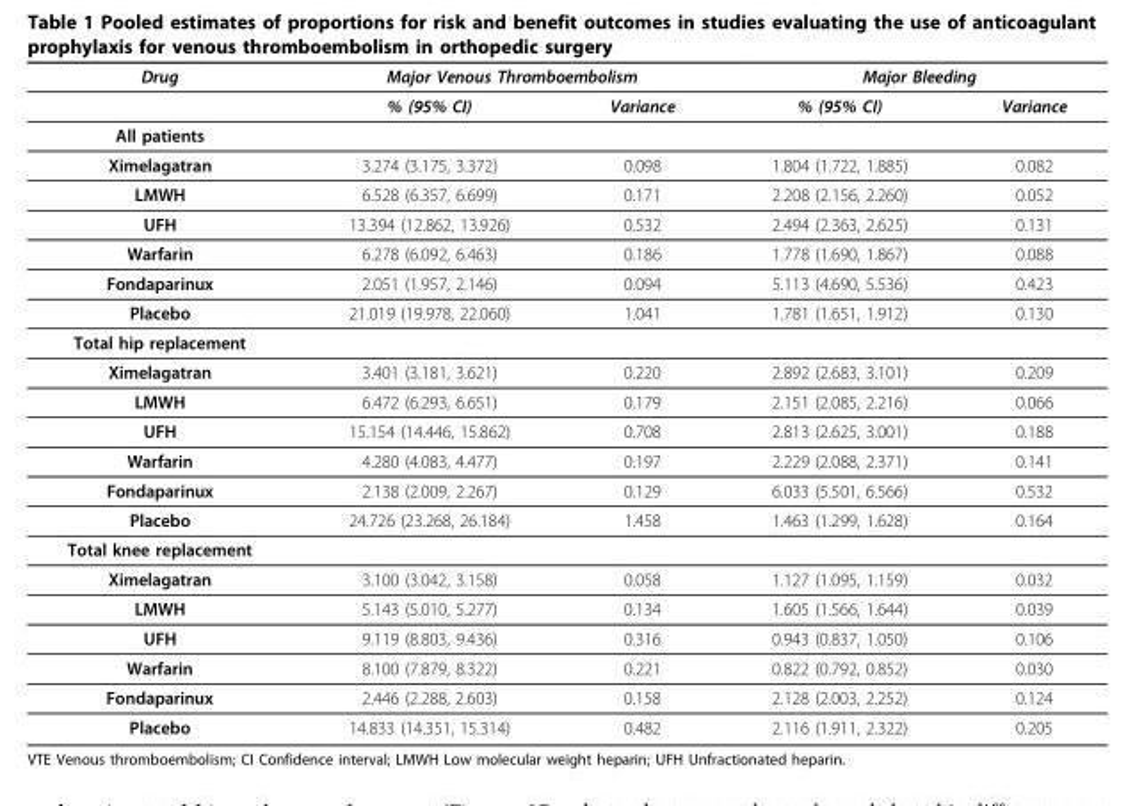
<table><thead><tr><td rowspan="2">Drug</td><td colspan="2">Major Venous Thromboembolism</td><td colspan="2">Major Bleeding</td></tr><tr><td>% (95% CI)</td><td>Variance</td><td>% (95% CI)</td><td>Variance</td></tr></thead><tbody><tr><td colspan="5">All patients</td></tr><tr><td>Ximelagatran</td><td>3.274 (3.175, 3.372)</td><td>0.098</td><td>1.804 (1.722, 1.885)</td><td>0.082</td></tr><tr><td>LMWH</td><td>6.528 (6.357, 6.699)</td><td>0.171</td><td>2.208 (2.156, 2.260)</td><td>0.052</td></tr><tr><td>UFH</td><td>13.394 (12.862, 13.926)</td><td>0.532</td><td>2.494 (2.363, 2.625)</td><td>0.131</td></tr><tr><td>Warfarin</td><td>6.278 (6.092, 6.463)</td><td>0.186</td><td>1.778 (1.690, 1.867)</td><td>0.088</td></tr><tr><td>Fondaparinux</td><td>2.051 (1.957, 2.146)</td><td>0.094</td><td>5.113 (4.690, 5.536)</td><td>0.423</td></tr><tr><td>Placebo</td><td>21.019 (19.978, 22.060)</td><td>1.041</td><td>1.781 (1.651, 1.912)</td><td>0.130</td></tr><tr><td colspan="5">Total hip replacement</td></tr><tr><td>Ximelagatran</td><td>3.401 (3.181, 3.621)</td><td>0.220</td><td>2.892 (2.683, 3.101)</td><td>0.209</td></tr><tr><td>LMWH</td><td>6.472 (6.293, 6.651)</td><td>0.179</td><td>2.151 (2.085, 2.216)</td><td>0.066</td></tr><tr><td>UFH</td><td>15.154 (14.446, 15.862)</td><td>0.708</td><td>2.813 (2.625, 3.001)</td><td>0.188</td></tr><tr><td>Warfarin</td><td>4.280 (4.083, 4.477)</td><td>0.197</td><td>2.229 (2.088, 2.371)</td><td>0.141</td></tr><tr><td>Fondaparinux</td><td>2.138 (2.009, 2.267)</td><td>0.129</td><td>6.033 (5.501, 6.566)</td><td>0.532</td></tr><tr><td>Placebo</td><td>24.726 (23.268, 26.184)</td><td>1.458</td><td>1.463 (1.299, 1.628)</td><td>0.164</td></tr><tr><td colspan="5">Total knee replacement</td></tr><tr><td>Ximelagatran</td><td>3.100 (3.042, 3.158)</td><td>0.058</td><td>1.127 (1.095, 1.159)</td><td>0.032</td></tr><tr><td>LMWH</td><td>5.143 (5.010, 5.277)</td><td>0.134</td><td>1.605 (1.566, 1.644)</td><td>0.039</td></tr><tr><td>UFH</td><td>9.119 (8.803, 9.436)</td><td>0.316</td><td>0.943 (0.837, 1.050)</td><td>0.106</td></tr><tr><td>Warfarin</td><td>8.100 (7.879, 8.322)</td><td>0.221</td><td>0.822 (0.792, 0.852)</td><td>0.030</td></tr><tr><td>Fondaparinux</td><td>2.446 (2.288, 2.603)</td><td>0.158</td><td>2.128 (2.003, 2.252)</td><td>0.124</td></tr><tr><td>Placebo</td><td>14.833 (14.351, 15.314)</td><td>0.482</td><td>2.116 (1.911, 2.322)</td><td>0.205</td></tr></tbody></table>